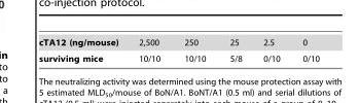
<table><tbody><tr><td>cTA12 (ng/mouse)</td><td>2,500</td><td>250</td><td>25</td><td>2.5</td><td>0</td></tr><tr><td>surviving mice</td><td>10/10</td><td>10/10</td><td>5/8</td><td>0/10</td><td>0/10</td></tr></tbody></table>